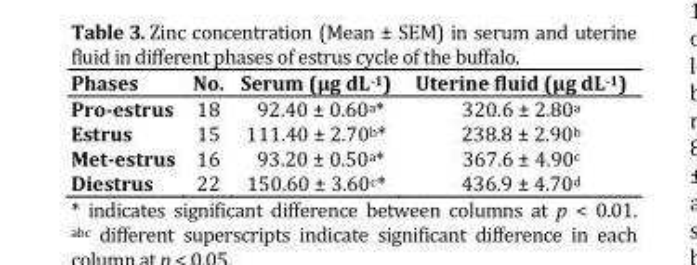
<table><thead><tr><td>Phases</td><td>No.</td><td>Serum (μg dL<sup>-1</sup>)</td><td>Uterine fluid (μg dL<sup>-1</sup>)</td></tr></thead><tbody><tr><td>Pro-estrus</td><td>18</td><td>92.40 ± 0.60<sup>a</sup>*</td><td>320.6 ± 2.80<sup>a</sup></td></tr><tr><td>Estrus</td><td>15</td><td>111.40 ± 2.70<sup>b</sup>*</td><td>238.8 ± 2.90<sup>b</sup></td></tr><tr><td>Met-estrus</td><td>16</td><td>93.20 ± 0.50<sup>a</sup>*</td><td>367.6 ± 4.90<sup>c</sup></td></tr><tr><td>Diestrus</td><td>22</td><td>150.60 ± 3.60<sup>c</sup>*</td><td>436.9 ± 4.70<sup>d</sup></td></tr></tbody></table>